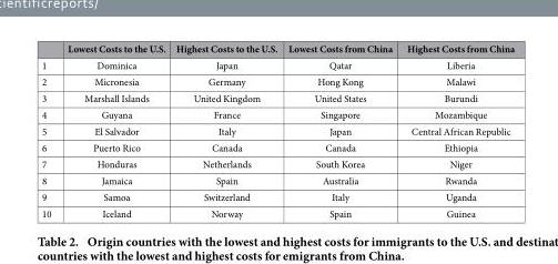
<table><thead><tr><td></td><td>Lowest Costs to the U.S.</td><td>Highest Costs to the U.S.</td><td>Lowest Costs from China</td><td>Highest Costs from China</td></tr></thead><tbody><tr><td>1</td><td>Dominica</td><td>Japan</td><td>Qatar</td><td>Liberia</td></tr><tr><td>2</td><td>Micronesia</td><td>Germany</td><td>Hong Kong</td><td>Malawi</td></tr><tr><td>3</td><td>Marshall Islands</td><td>United Kingdom</td><td>United States</td><td>Burundi</td></tr><tr><td>4</td><td>Guyana</td><td>France</td><td>Singapore</td><td>Mozambique</td></tr><tr><td>5</td><td>El Salvador</td><td>Italy</td><td>Japan</td><td>Central African Republic</td></tr><tr><td>6</td><td>Puerto Rico</td><td>Canada</td><td>Canada</td><td>Ethiopia</td></tr><tr><td>7</td><td>Honduras</td><td>Netherlands</td><td>South Korea</td><td>Niger</td></tr><tr><td>8</td><td>Jamaica</td><td>Spain</td><td>Australia</td><td>Rwanda</td></tr><tr><td>9</td><td>Samoa</td><td>Switzerland</td><td>Italy</td><td>Uganda</td></tr><tr><td>10</td><td>Iceland</td><td>Norway</td><td>Spain</td><td>Guinea</td></tr></tbody></table>